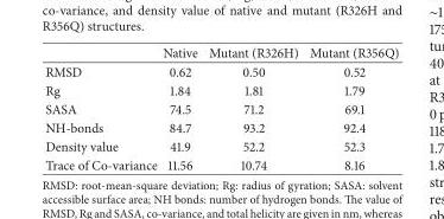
<table><thead><tr><td></td><td>Native</td><td>Mutant (R326H)</td><td>Mutant (R356Q)</td></tr></thead><tbody><tr><td>RMSD</td><td>0.62</td><td>0.50</td><td>0.52</td></tr><tr><td>Rg</td><td>1.84</td><td>1.81</td><td>1.79</td></tr><tr><td>SASA</td><td>74.5</td><td>71.2</td><td>69.1</td></tr><tr><td>NH-bonds</td><td>84.7</td><td>93.2</td><td>92.4</td></tr><tr><td>Density value</td><td>41.9</td><td>52.2</td><td>52.3</td></tr><tr><td>Trace of Co-variance</td><td>11.56</td><td>10.74</td><td>8.16</td></tr></tbody></table>